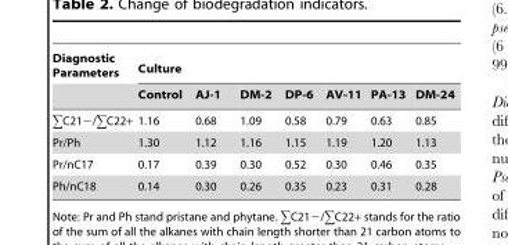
<table><thead><tr><td rowspan="2">Diagnostic Parameters</td><td colspan="7">Culture</td></tr><tr><td>Control</td><td>AJ-1</td><td>DM-2</td><td>DP-6</td><td>AV-11</td><td>PA-13</td><td>DM-24</td></tr></thead><tbody><tr><td>∑C21−/∑C22+</td><td>1.16</td><td>0.68</td><td>1.09</td><td>0.58</td><td>0.79</td><td>0.63</td><td>0.85</td></tr><tr><td>Pr/Ph</td><td>1.30</td><td>1.12</td><td>1.16</td><td>1.15</td><td>1.19</td><td>1.20</td><td>1.13</td></tr><tr><td>Pr/nC17</td><td>0.17</td><td>0.39</td><td>0.30</td><td>0.52</td><td>0.30</td><td>0.46</td><td>0.35</td></tr><tr><td>Ph/nC18</td><td>0.14</td><td>0.30</td><td>0.26</td><td>0.35</td><td>0.23</td><td>0.31</td><td>0.28</td></tr></tbody></table>